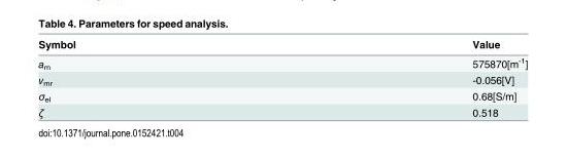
<table><thead><tr><td>Symbol</td><td>Value</td></tr></thead><tbody><tr><td>a<sub>m</sub></td><td>575870[m<sup>-1</sup>]</td></tr><tr><td>v<sub>mr</sub></td><td>-0.056[V]</td></tr><tr><td>σ<sub>el</sub></td><td>0.68[S/m]</td></tr><tr><td>ζ</td><td>0.518</td></tr></tbody></table>